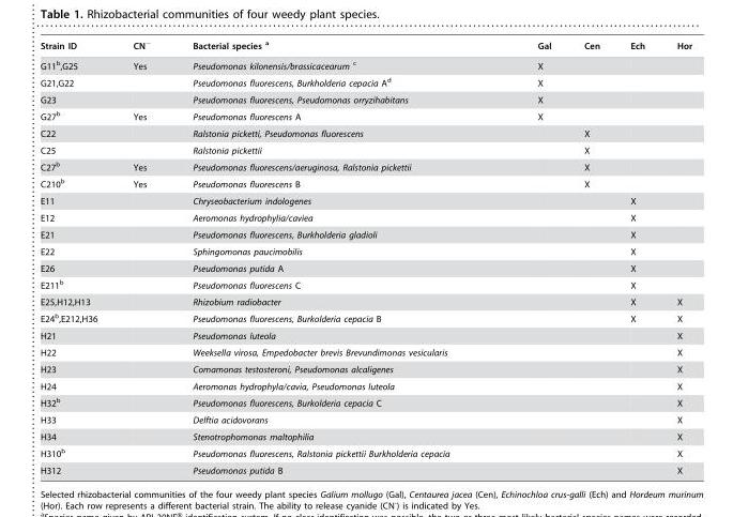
<table><thead><tr><td>Strain ID</td><td>CN<sup>−</sup></td><td>Bacterial species a</td><td>Gal</td><td>Cen</td><td>Ech</td><td>Hor</td></tr></thead><tbody><tr><td>G11<sup>b</sup>,G25</td><td>Yes</td><td>Pseudomonas kilonensis/brassicacearum c</td><td>X</td><td></td><td></td><td></td></tr><tr><td>G21,G22</td><td></td><td>Pseudomonas fluorescens, Burkholderia cepacia A<sup>d</sup></td><td>X</td><td></td><td></td><td></td></tr><tr><td>G23</td><td></td><td>Pseudomonas fluorescens, Pseudomonas orryzihabitans</td><td>X</td><td></td><td></td><td></td></tr><tr><td>G27<sup>b</sup></td><td>Yes</td><td>Pseudomonas fluorescens A</td><td>X</td><td></td><td></td><td></td></tr><tr><td>C22</td><td></td><td>Ralstonia picketti, Pseudomonas fluorescens</td><td></td><td>X</td><td></td><td></td></tr><tr><td>C25</td><td></td><td>Ralstonia pickettii</td><td></td><td>X</td><td></td><td></td></tr><tr><td>C27<sup>b</sup></td><td>Yes</td><td>Pseudomonas fluorescens/aeruginosa, Ralstonia pickettii</td><td></td><td>X</td><td></td><td></td></tr><tr><td>C210<sup>b</sup></td><td>Yes</td><td>Pseudomonas fluorescens B</td><td></td><td>X</td><td></td><td></td></tr><tr><td>E11</td><td></td><td>Chryseobacterium indologenes</td><td></td><td></td><td>X</td><td></td></tr><tr><td>E12</td><td></td><td>Aeromonas hydrophylia/caviea</td><td></td><td></td><td>X</td><td></td></tr><tr><td>E21</td><td></td><td>Pseudomonas fluorescens, Burkholderia gladioli</td><td></td><td></td><td>X</td><td></td></tr><tr><td>E22</td><td></td><td>Sphingomonas paucimobilis</td><td></td><td></td><td>X</td><td></td></tr><tr><td>E26</td><td></td><td>Pseudomonas putida A</td><td></td><td></td><td>X</td><td></td></tr><tr><td>E211<sup>b</sup></td><td></td><td>Pseudomonas fluorescens C</td><td></td><td></td><td>X</td><td></td></tr><tr><td>E25,H12,H13</td><td></td><td>Rhizobium radiobacter</td><td></td><td></td><td>X</td><td>X</td></tr><tr><td>E24<sup>b</sup>,E212,H36</td><td></td><td>Pseudomonas fluorescens, Burkolderia cepacia B</td><td></td><td></td><td>X</td><td>X</td></tr><tr><td>H21</td><td></td><td>Pseudomonas luteola</td><td></td><td></td><td></td><td>X</td></tr><tr><td>H22</td><td></td><td>Weeksella virosa, Empedobacter brevis Brevundimonas vesicularis</td><td></td><td></td><td></td><td>X</td></tr><tr><td>H23</td><td></td><td>Comamonas testosteroni, Pseudomonas alcaligenes</td><td></td><td></td><td></td><td>X</td></tr><tr><td>H24</td><td></td><td>Aeromonas hydrophyla/cavia, Pseudomonas luteola</td><td></td><td></td><td></td><td>X</td></tr><tr><td>H32<sup>b</sup></td><td></td><td>Pseudomonas fluorescens, Burkolderia cepacia C</td><td></td><td></td><td></td><td>X</td></tr><tr><td>H33</td><td></td><td>Delftia acidovorans</td><td></td><td></td><td></td><td>X</td></tr><tr><td>H34</td><td></td><td>Stenotrophomonas maltophilia</td><td></td><td></td><td></td><td>X</td></tr><tr><td>H310<sup>b</sup></td><td></td><td>Pseudomonas fluorescens, Ralstonia pickettii Burkholderia cepacia</td><td></td><td></td><td></td><td>X</td></tr><tr><td>H312</td><td></td><td>Pseudomonas putida B</td><td></td><td></td><td></td><td>X</td></tr></tbody></table>